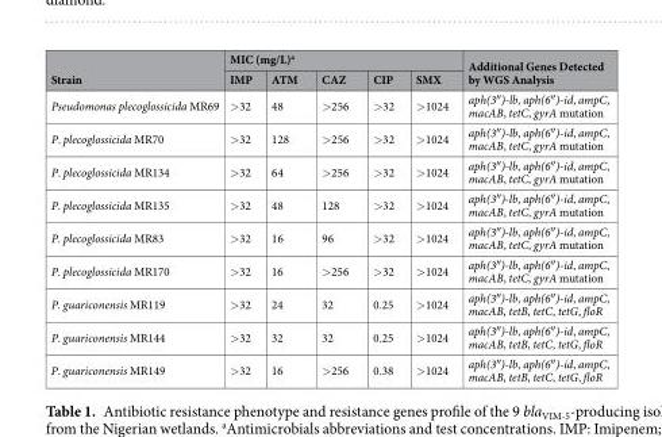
<table><thead><tr><td rowspan="2">Strain</td><td colspan="5">MIC (mg/L)<sup>a</sup></td><td rowspan="2">Additional Genes Detected by WGS Analysis</td></tr><tr><td>IMP</td><td>ATM</td><td>CAZ</td><td>CIP</td><td>SMX</td></tr></thead><tbody><tr><td>Pseudomonas plecoglossicida MR69</td><td>&gt;32</td><td>48</td><td>&gt;256</td><td>&gt;32</td><td>&gt;1024</td><td>aph(3″)-lb, aph(6″)-id, ampC, macAB, tetC, gyrA mutation</td></tr><tr><td>P. plecoglossicida MR70</td><td>&gt;32</td><td>128</td><td>&gt;256</td><td>&gt;32</td><td>&gt;1024</td><td>aph(3″)-lb, aph(6″)-id, ampC, macAB, tetC, gyrA mutation</td></tr><tr><td>P. plecoglossicida MR134</td><td>&gt;32</td><td>64</td><td>&gt;256</td><td>&gt;32</td><td>&gt;1024</td><td>aph(3″)-lb, aph(6″)-id, ampC, macAB, tetC, gyrA mutation</td></tr><tr><td>P. plecoglossicida MR135</td><td>&gt;32</td><td>48</td><td>128</td><td>&gt;32</td><td>&gt;1024</td><td>aph(3″)-lb, aph(6″)-id, ampC, macAB, tetC, gyrA mutation</td></tr><tr><td>P. plecoglossicida MR83</td><td>&gt;32</td><td>16</td><td>96</td><td>&gt;32</td><td>&gt;1024</td><td>aph(3″)-lb, aph(6″)-id, ampC, macAB, tetC, gyrA mutation</td></tr><tr><td>P. plecoglossicida MR170</td><td>&gt;32</td><td>16</td><td>&gt;256</td><td>&gt;32</td><td>&gt;1024</td><td>aph(3″)-lb, aph(6″)-id, ampC, macAB, tetC, gyrA mutation</td></tr><tr><td>P. guariconensis MR119</td><td>&gt;32</td><td>24</td><td>32</td><td>0.25</td><td>&gt;1024</td><td>aph(3″)-lb, aph(6″)-id, ampC, macAB, tetB, tetC, tetG, floR</td></tr><tr><td>P. guariconensis MR144</td><td>&gt;32</td><td>32</td><td>32</td><td>0.25</td><td>&gt;1024</td><td>aph(3″)-lb, aph(6″)-id, ampC, macAB, tetB, tetC, tetG, floR</td></tr><tr><td>P. guariconensis MR149</td><td>&gt;32</td><td>16</td><td>&gt;256</td><td>0.38</td><td>&gt;1024</td><td>aph(3″)-lb, aph(6″)-id, ampC, macAB, tetB, tetC, tetG, floR</td></tr></tbody></table>